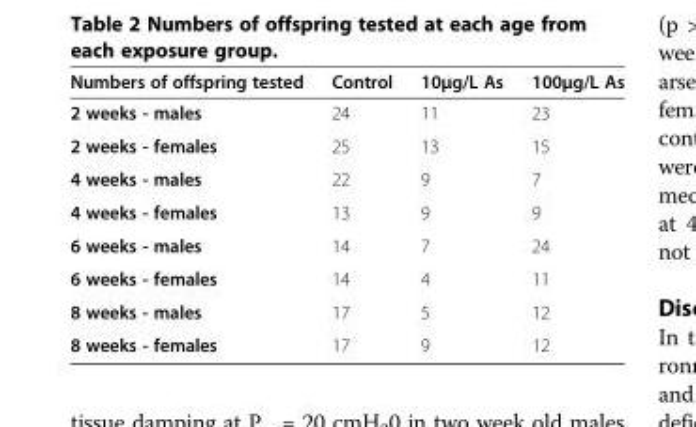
<table><thead><tr><td>Numbers of offspring tested</td><td>Control</td><td>10μg/L As</td><td>100μg/L As</td></tr></thead><tbody><tr><td>2 weeks - males</td><td>24</td><td>11</td><td>23</td></tr><tr><td>2 weeks - females</td><td>25</td><td>13</td><td>15</td></tr><tr><td>4 weeks - males</td><td>22</td><td>9</td><td>7</td></tr><tr><td>4 weeks - females</td><td>13</td><td>9</td><td>9</td></tr><tr><td>6 weeks - males</td><td>14</td><td>7</td><td>24</td></tr><tr><td>6 weeks - females</td><td>14</td><td>4</td><td>11</td></tr><tr><td>8 weeks - males</td><td>17</td><td>5</td><td>12</td></tr><tr><td>8 weeks - females</td><td>17</td><td>9</td><td>12</td></tr></tbody></table>